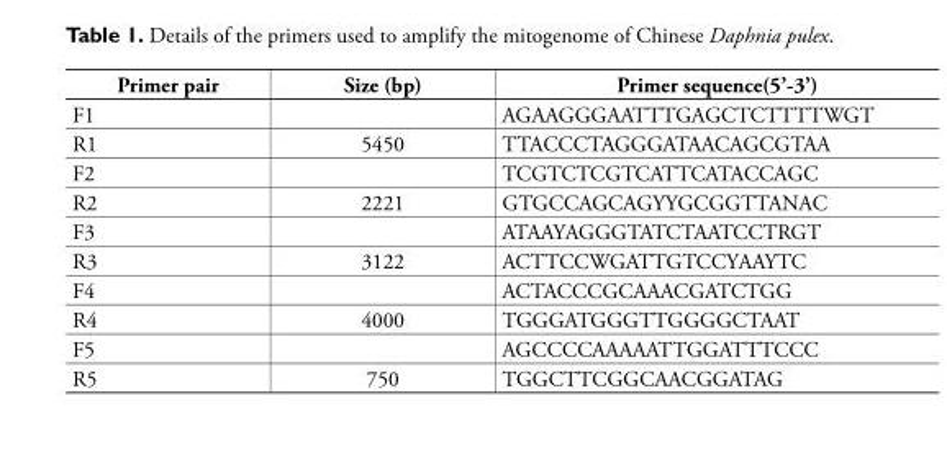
<table><thead><tr><td>Primer pair</td><td>Size (bp)</td><td>Primer sequence(5’-3’)</td></tr></thead><tbody><tr><td>F1</td><td></td><td>AGAAGGGAATTTGAGCTCTTTTWGT</td></tr><tr><td>R1</td><td>5450</td><td>TTACCCTAGGGATAACAGCGTAA</td></tr><tr><td>F2</td><td></td><td>TCGTCTCGTCATTCATACCAGC</td></tr><tr><td>R2</td><td>2221</td><td>GTGCCAGCAGYYGCGGTTANAC</td></tr><tr><td>F3</td><td></td><td>ATAAYAGGGTATCTAATCCTRGT</td></tr><tr><td>R3</td><td>3122</td><td>ACTTCCWGATTGTCCYAAYTC</td></tr><tr><td>F4</td><td></td><td>ACTACCCGCAAACGATCTGG</td></tr><tr><td>R4</td><td>4000</td><td>TGGGATGGGTTGGGGCTAAT</td></tr><tr><td>F5</td><td></td><td>AGCCCCAAAAATTGGATTTCCC</td></tr><tr><td>R5</td><td>750</td><td>TGGCTTCGGCAACGGATAG</td></tr></tbody></table>